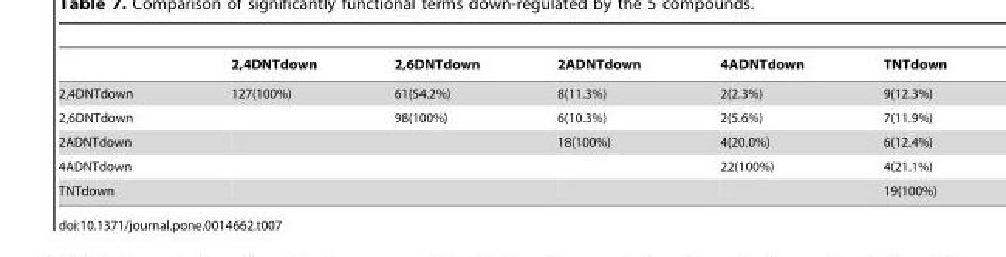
<table><thead><tr><td></td><td>2,4DNTdown</td><td>2,6DNTdown</td><td>2ADNTdown</td><td>4ADNTdown</td><td>TNTdown</td></tr></thead><tbody><tr><td>2,4DNTdown</td><td>127(100%)</td><td>61(54.2%)</td><td>8(11.3%)</td><td>2(2.3%)</td><td>9(12.3%)</td></tr><tr><td>2,6DNTdown</td><td></td><td>98(100%)</td><td>6(10.3%)</td><td>2(5.6%)</td><td>7(11.9%)</td></tr><tr><td>2ADNTdown</td><td></td><td></td><td>18(100%)</td><td>4(20.0%)</td><td>6(12.4%)</td></tr><tr><td>4ADNTdown</td><td></td><td></td><td></td><td>22(100%)</td><td>4(21.1%)</td></tr><tr><td>TNTdown</td><td></td><td></td><td></td><td></td><td>19(100%)</td></tr></tbody></table>